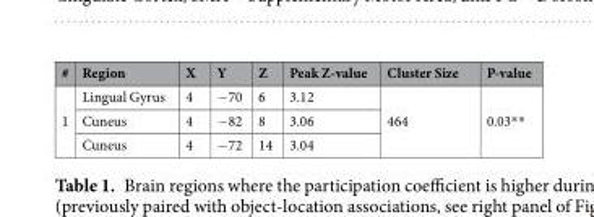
<table><thead><tr><td>#</td><td>Region</td><td>X</td><td>Y</td><td>Z</td><td>Peak Z-value</td><td>Cluster Size</td><td>P-value</td></tr></thead><tbody><tr><td rowspan="3">1</td><td>Lingual Gyrus</td><td>4</td><td>−70</td><td>6</td><td>3.12</td><td rowspan="3">464</td><td rowspan="3">0.03**</td></tr><tr><td>Cuneus</td><td>4</td><td>−82</td><td>8</td><td>3.06</td></tr><tr><td>Cuneus</td><td>4</td><td>−72</td><td>14</td><td>3.04</td></tr></tbody></table>